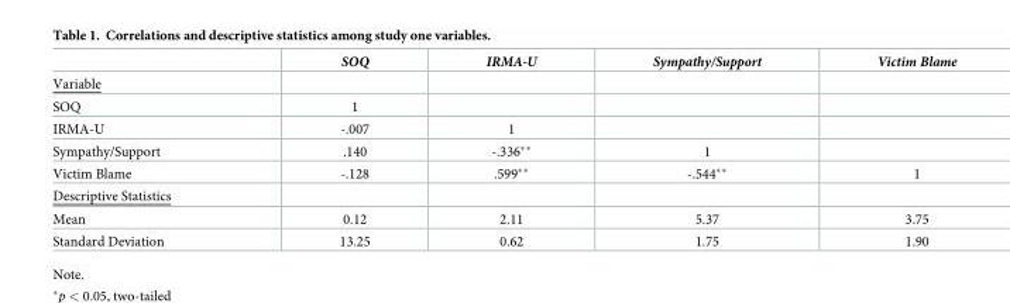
<table><thead><tr><td></td><td>SOQ</td><td>IRMA-U</td><td>Sympathy/Support</td><td>Victim Blame</td></tr></thead><tbody><tr><td colspan="5">Variable</td></tr><tr><td>SOQ</td><td>1</td><td></td><td></td><td></td></tr><tr><td>IRMA-U</td><td>-.007</td><td>1</td><td></td><td></td></tr><tr><td>Sympathy/Support</td><td>.140</td><td>-.336**</td><td>1</td><td></td></tr><tr><td>Victim Blame</td><td>-.128</td><td>.599**</td><td>-.544**</td><td>1</td></tr><tr><td colspan="5">Descriptive Statistics</td></tr><tr><td>Mean</td><td>0.12</td><td>2.11</td><td>5.37</td><td>3.75</td></tr><tr><td>Standard Deviation</td><td>13.25</td><td>0.62</td><td>1.75</td><td>1.90</td></tr></tbody></table>